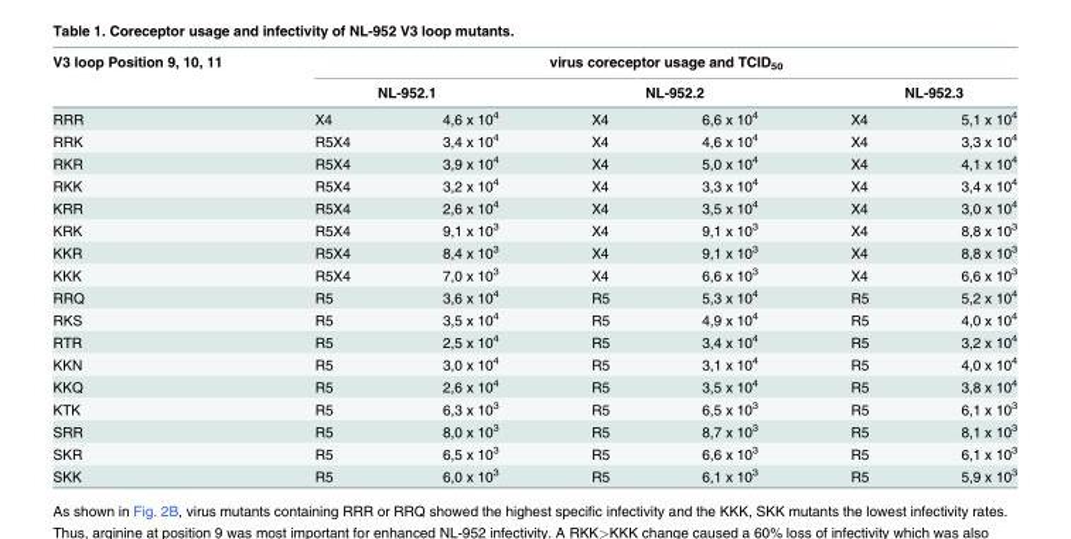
<table><thead><tr><td rowspan="3">V3 loop Position 9, 10, 11 RRR</td><td colspan="6">virus coreceptor usage and TCID<sub>50</sub></td></tr><tr><td colspan="2">NL-952.1</td><td colspan="2">NL-952.2</td><td colspan="2">NL-952.3</td></tr><tr><td>X4</td><td>4,6 x 10<sup>4</sup></td><td>X4</td><td>6,6 x 10<sup>4</sup></td><td>X4</td><td>5,1 x 10<sup>4</sup></td></tr></thead><tbody><tr><td>RRK</td><td>R5X4</td><td>3,4 x 10<sup>4</sup></td><td>X4</td><td>4,6 x 10<sup>4</sup></td><td>X4</td><td>3,3 x 10<sup>4</sup></td></tr><tr><td>RKR</td><td>R5X4</td><td>3,9 x 10<sup>4</sup></td><td>X4</td><td>5,0 x 10<sup>4</sup></td><td>X4</td><td>4,1 x 10<sup>4</sup></td></tr><tr><td>RKK</td><td>R5X4</td><td>3,2 x 10<sup>4</sup></td><td>X4</td><td>3,3 x 10<sup>4</sup></td><td>X4</td><td>3,4 x 10<sup>4</sup></td></tr><tr><td>KRR</td><td>R5X4</td><td>2,6 x 10<sup>4</sup></td><td>X4</td><td>3,5 x 10<sup>4</sup></td><td>X4</td><td>3,0 x 10<sup>4</sup></td></tr><tr><td>KRK</td><td>R5X4</td><td>9,1 x 10<sup>3</sup></td><td>X4</td><td>9,1 x 10<sup>3</sup></td><td>X4</td><td>8,8 x 10<sup>3</sup></td></tr><tr><td>KKR</td><td>R5X4</td><td>8,4 x 10<sup>3</sup></td><td>X4</td><td>9,1 x 10<sup>3</sup></td><td>X4</td><td>8,8 x 10<sup>3</sup></td></tr><tr><td>KKK</td><td>R5X4</td><td>7,0 x 10<sup>3</sup></td><td>X4</td><td>6,6 x 10<sup>3</sup></td><td>X4</td><td>6,6 x 10<sup>3</sup></td></tr><tr><td>RRQ</td><td>R5</td><td>3,6 x 10<sup>4</sup></td><td>R5</td><td>5,3 x 10<sup>4</sup></td><td>R5</td><td>5,2 x 10<sup>4</sup></td></tr><tr><td>RKS</td><td>R5</td><td>3,5 x 10<sup>4</sup></td><td>R5</td><td>4,9 x 10<sup>4</sup></td><td>R5</td><td>4,0 x 10<sup>4</sup></td></tr><tr><td>RTR</td><td>R5</td><td>2,5 x 10<sup>4</sup></td><td>R5</td><td>3,4 x 10<sup>4</sup></td><td>R5</td><td>3,2 x 10<sup>4</sup></td></tr><tr><td>KKN</td><td>R5</td><td>3,0 x 10<sup>4</sup></td><td>R5</td><td>3,1 x 10<sup>4</sup></td><td>R5</td><td>4,0 x 10<sup>4</sup></td></tr><tr><td>KKQ</td><td>R5</td><td>2,6 x 10<sup>4</sup></td><td>R5</td><td>3,5 x 10<sup>4</sup></td><td>R5</td><td>3,8 x 10<sup>4</sup></td></tr><tr><td>KTK</td><td>R5</td><td>6,3 x 10<sup>3</sup></td><td>R5</td><td>6,5 x 10<sup>3</sup></td><td>R5</td><td>6,1 x 10<sup>3</sup></td></tr><tr><td>SRR</td><td>R5</td><td>8,0 x 10<sup>3</sup></td><td>R5</td><td>8,7 x 10<sup>3</sup></td><td>R5</td><td>8,1 x 10<sup>3</sup></td></tr><tr><td>SKR</td><td>R5</td><td>6,5 x 10<sup>3</sup></td><td>R5</td><td>6,6 x 10<sup>3</sup></td><td>R5</td><td>6,1 x 10<sup>3</sup></td></tr><tr><td>SKK</td><td>R5</td><td>6,0 x 10<sup>3</sup></td><td>R5</td><td>6,1 x 10<sup>3</sup></td><td>R5</td><td>5,9 x 10<sup>3</sup></td></tr></tbody></table>